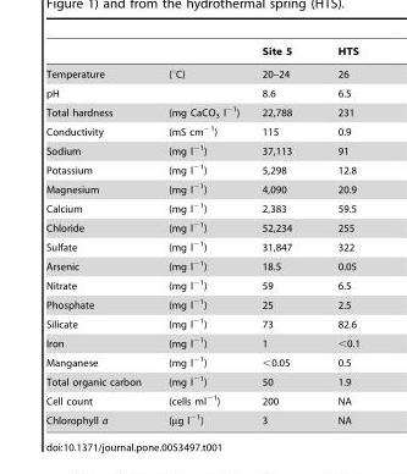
<table><thead><tr><td></td><td></td><td>Site 5</td><td>HTS</td></tr></thead><tbody><tr><td>Temperature</td><td>(°C)</td><td>20–24</td><td>26</td></tr><tr><td>pH</td><td></td><td>8.6</td><td>6.5</td></tr><tr><td>Total hardness</td><td>(mg CaCO<sub>3</sub> l<sup>−1</sup>)</td><td>22,788</td><td>231</td></tr><tr><td>Conductivity</td><td>(mS cm<sup>−1</sup>)</td><td>115</td><td>0.9</td></tr><tr><td>Sodium</td><td>(mg l<sup>−1</sup>)</td><td>37,113</td><td>91</td></tr><tr><td>Potassium</td><td>(mg l<sup>−1</sup>)</td><td>5,298</td><td>12.8</td></tr><tr><td>Magnesium</td><td>(mg l<sup>−1</sup>)</td><td>4,090</td><td>20.9</td></tr><tr><td>Calcium</td><td>(mg l<sup>−1</sup>)</td><td>2,383</td><td>59.5</td></tr><tr><td>Chloride</td><td>(mg l<sup>−1</sup>)</td><td>52,234</td><td>255</td></tr><tr><td>Sulfate</td><td>(mg l<sup>−1</sup>)</td><td>31,847</td><td>322</td></tr><tr><td>Arsenic</td><td>(mg l<sup>−1</sup>)</td><td>18.5</td><td>0.05</td></tr><tr><td>Nitrate</td><td>(mg l<sup>−1</sup>)</td><td>59</td><td>6.5</td></tr><tr><td>Phosphate</td><td>(mg l<sup>−1</sup>)</td><td>25</td><td>2.5</td></tr><tr><td>Silicate</td><td>(mg l<sup>−1</sup>)</td><td>73</td><td>82.6</td></tr><tr><td>Iron</td><td>(mg l<sup>−1</sup>)</td><td>1</td><td>&lt;0.1</td></tr><tr><td>Manganese</td><td>(mg l<sup>−1</sup>)</td><td>&lt;0.05</td><td>0.5</td></tr><tr><td>Total organic carbon</td><td>(mg l<sup>−1</sup>)</td><td>50</td><td>1.9</td></tr><tr><td>Cell count</td><td>(cells ml<sup>−1</sup>)</td><td>200</td><td>NA</td></tr><tr><td>Chlorophyll a</td><td>(µg l<sup>−1</sup>)</td><td>3</td><td>NA</td></tr></tbody></table>